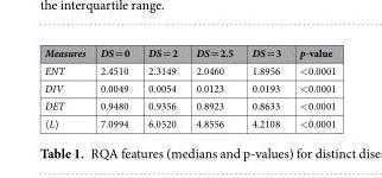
<table><thead><tr><td>Measures</td><td>DS = 0</td><td>DS = 2</td><td>DS = 2.5</td><td>DS = 3</td><td>p-value</td></tr></thead><tbody><tr><td>ENT</td><td>2.4510</td><td>2.3149</td><td>2.0460</td><td>1.8956</td><td>&lt;0.0001</td></tr><tr><td>DIV</td><td>0.0049</td><td>0.0054</td><td>0.0123</td><td>0.0193</td><td>&lt;0.0001</td></tr><tr><td>DET</td><td>0.9480</td><td>0.9356</td><td>0.8923</td><td>0.8633</td><td>&lt;0.0001</td></tr><tr><td>〈L〉</td><td>7.0994</td><td>6.0520</td><td>4.8556</td><td>4.2108</td><td>&lt;0.0001</td></tr></tbody></table>